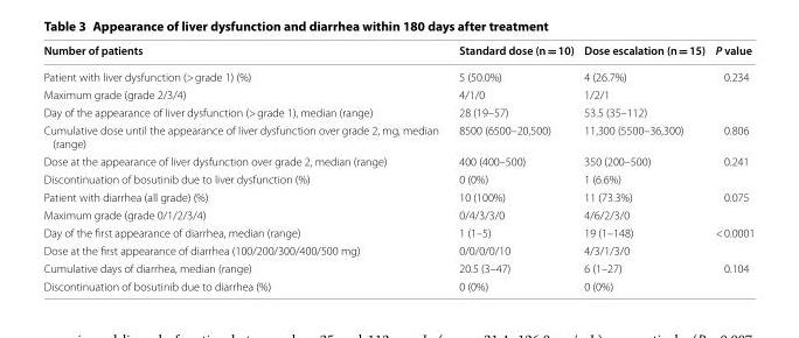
<table><thead><tr><td>Number of patients</td><td>Standard dose (n = 10)</td><td>Dose escalation (n = 15)</td><td>P value</td></tr></thead><tbody><tr><td>Patient with liver dysfunction (&gt; grade 1) (%)</td><td>5 (50.0%)</td><td>4 (26.7%)</td><td>0.234</td></tr><tr><td>Maximum grade (grade 2/3/4)</td><td>4/1/0</td><td>1/2/1</td><td></td></tr><tr><td>Day of the appearance of liver dysfunction (&gt; grade 1), median (range)</td><td>28 (19–57)</td><td>53.5 (35–112)</td><td></td></tr><tr><td>Cumulative dose until the appearance of liver dysfunction over grade 2, mg, median (range)</td><td>8500 (6500–20,500)</td><td>11,300 (5500–36,300)</td><td>0.806</td></tr><tr><td>Dose at the appearance of liver dysfunction over grade 2, median (range)</td><td>400 (400–500)</td><td>350 (200–500)</td><td>0.241</td></tr><tr><td>Discontinuation of bosutinib due to liver dysfunction (%)</td><td>0 (0%)</td><td>1 (6.6%)</td><td></td></tr><tr><td>Patient with diarrhea (all grade) (%)</td><td>10 (100%)</td><td>11 (73.3%)</td><td>0.075</td></tr><tr><td>Maximum grade (grade 0/1/2/3/4)</td><td>0/4/3/3/0</td><td>4/6/2/3/0</td><td></td></tr><tr><td>Day of the first appearance of diarrhea, median (range)</td><td>1 (1–5)</td><td>19 (1–148)</td><td>&lt; 0.0001</td></tr><tr><td>Dose at the first appearance of diarrhea (100/200/300/400/500 mg)</td><td>0/0/0/0/10</td><td>4/3/1/3/0</td><td></td></tr><tr><td>Cumulative days of diarrhea, median (range)</td><td>20.5 (3–47)</td><td>6 (1–27)</td><td>0.104</td></tr><tr><td>Discontinuation of bosutinib due to diarrhea (%)</td><td>0 (0%)</td><td>0 (0%)</td><td></td></tr></tbody></table>